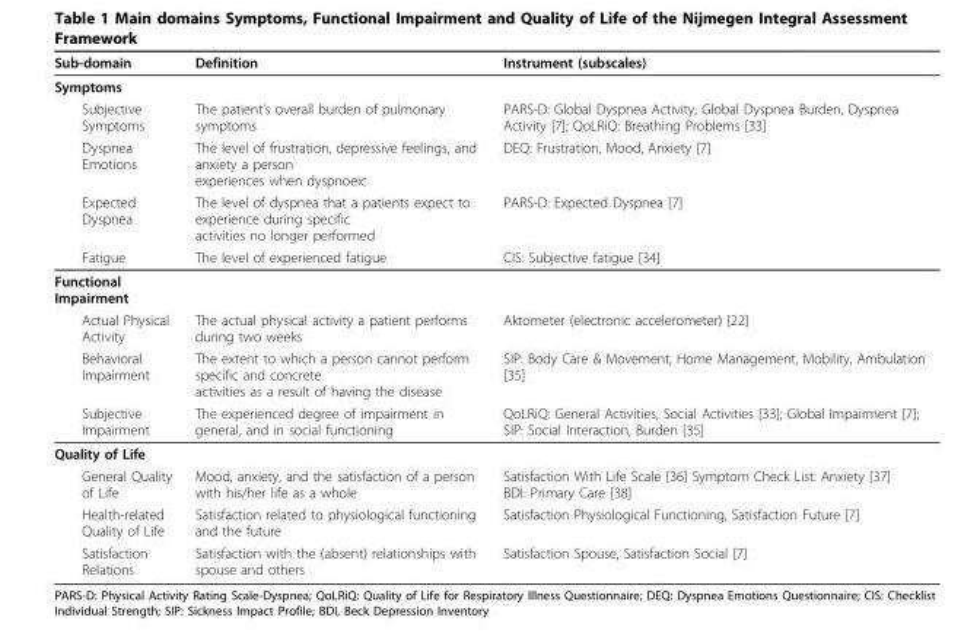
<table><thead><tr><td>Sub-domain</td><td>Definition</td><td>Instrument (subscales)</td></tr></thead><tbody><tr><td colspan="3">Symptoms</td></tr><tr><td>Subjective Symptoms</td><td>The patient’s overall burden of pulmonary symptoms</td><td>PARS-D: Global Dyspnea Activity, Global Dyspnea Burden, Dyspnea Activity [7]; QoLRiQ: Breathing Problems [33]</td></tr><tr><td>Dyspnea Emotions</td><td>The level of frustration, depressive feelings, and anxiety a person experiences when dyspnoeic</td><td>DEQ: Frustration, Mood, Anxiety [7]</td></tr><tr><td>Expected Dyspnea</td><td>The level of dyspnea that a patients expect to experience during specific activities no longer performed</td><td>PARS-D: Expected Dyspnea [7]</td></tr><tr><td>Fatigue</td><td>The level of experienced fatigue</td><td>CIS: Subjective fatigue [34]</td></tr><tr><td colspan="3">Functional Impairment</td></tr><tr><td>Actual Physical Activity</td><td>The actual physical activity a patient performs during two weeks</td><td>Aktometer (electronic accelerometer) [22]</td></tr><tr><td>Behavioral Impairment</td><td>The extent to which a person cannot perform specific and concrete activities as a result of having the disease</td><td>SIP: Body Care &amp; Movement, Home Management, Mobility, Ambulation [35]</td></tr><tr><td>Subjective Impairment</td><td>The experienced degree of impairment in general, and in social functioning</td><td>QoLRiQ: General Activities, Social Activities [33]; Global Impairment [7]; SIP: Social Interaction, Burden [35]</td></tr><tr><td colspan="3">Quality of Life</td></tr><tr><td>General Quality of Life</td><td>Mood, anxiety, and the satisfaction of a person with his/her life as a whole</td><td>Satisfaction With Life Scale [36] Symptom Check List: Anxiety [37] BDI: Primary Care [38]</td></tr><tr><td>Health-related Quality of Life</td><td>Satisfaction related to physiological functioning and the future</td><td>Satisfaction Physiological Functioning, Satisfaction Future [7]</td></tr><tr><td>Satisfaction Relations</td><td>Satisfaction with the (absent) relationships with spouse and others</td><td>Satisfaction Spouse, Satisfaction Social [7]</td></tr></tbody></table>